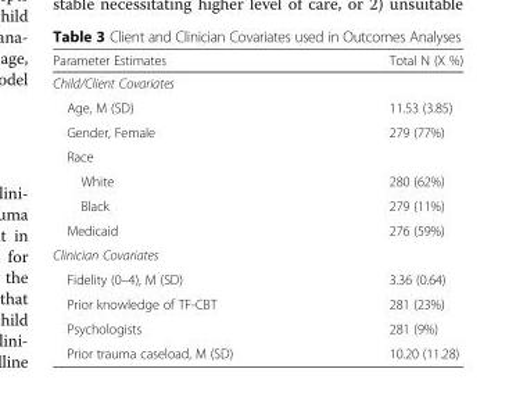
<table><thead><tr><td>Parameter Estimates</td><td>Total N (X %)</td></tr></thead><tbody><tr><td colspan="2">Child/Client Covariates</td></tr><tr><td>Age, M (SD)</td><td>11.53 (3.85)</td></tr><tr><td>Gender, Female</td><td>279 (77%)</td></tr><tr><td colspan="2">Race</td></tr><tr><td>White</td><td>280 (62%)</td></tr><tr><td>Black</td><td>279 (11%)</td></tr><tr><td>Medicaid</td><td>276 (59%)</td></tr><tr><td colspan="2">Clinician Covariates</td></tr><tr><td>Fidelity (0–4), M (SD)</td><td>3.36 (0.64)</td></tr><tr><td>Prior knowledge of TF-CBT</td><td>281 (23%)</td></tr><tr><td>Psychologists</td><td>281 (9%)</td></tr><tr><td>Prior trauma caseload, M (SD)</td><td>10.20 (11.28)</td></tr></tbody></table>